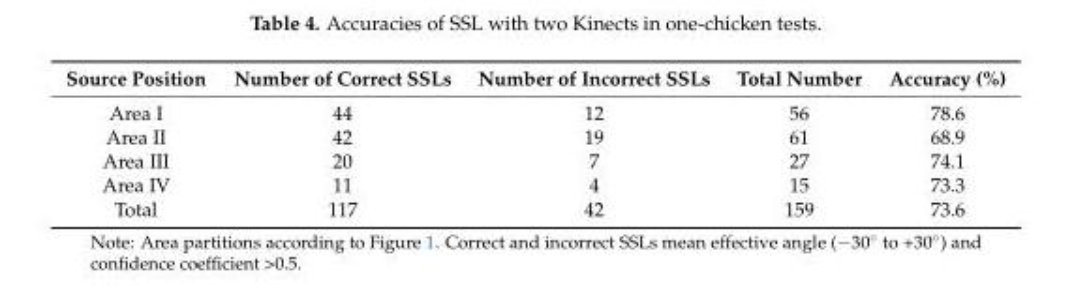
<table><thead><tr><td>Source Position</td><td>Number of Correct SSLs</td><td>Number of Incorrect SSLs</td><td>Total Number</td><td>Accuracy (%)</td></tr></thead><tbody><tr><td>Area I</td><td>44</td><td>12</td><td>56</td><td>78.6</td></tr><tr><td>Area II</td><td>42</td><td>19</td><td>61</td><td>68.9</td></tr><tr><td>Area III</td><td>20</td><td>7</td><td>27</td><td>74.1</td></tr><tr><td>Area IV</td><td>11</td><td>4</td><td>15</td><td>73.3</td></tr><tr><td>Total</td><td>117</td><td>42</td><td>159</td><td>73.6</td></tr></tbody></table>